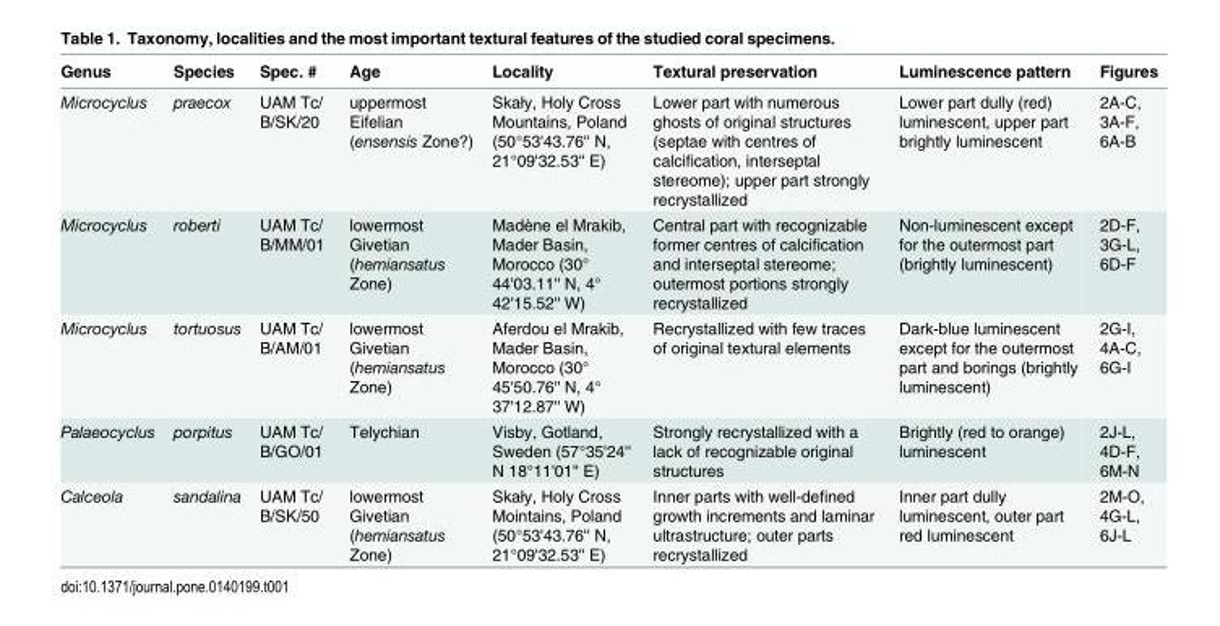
<table><thead><tr><td>Genus</td><td>Species</td><td>Spec. #</td><td>Age</td><td>Locality</td><td>Textural preservation</td><td>Luminescence pattern</td><td>Figures</td></tr></thead><tbody><tr><td>Microcyclus</td><td>praecox</td><td>UAM Tc/ B/SK/20</td><td>uppermost Eifelian (ensensis Zone?)</td><td>Skały, Holy Cross Mountains, Poland (50°53&#x27;43.76&#x27;&#x27; N, 21°09&#x27;32.53&#x27;&#x27; E)</td><td>Lower part with numerous ghosts of original structures (septae with centres of calcification, interseptal stereome); upper part strongly recrystallized</td><td>Lower part dully (red) luminescent, upper part brightly luminescent</td><td>2A-C, 3A-F, 6A-B</td></tr><tr><td>Microcyclus</td><td>roberti</td><td>UAM Tc/ B/MM/01</td><td>lowermost Givetian (hemiansatus Zone)</td><td>Madène el Mrakib, Mader Basin, Morocco (30° 44&#x27;03.11&#x27;&#x27; N, 4° 42&#x27;15.52&#x27;&#x27; W)</td><td>Central part with recognizable former centres of calcification and interseptal stereome; outermost portions strongly recrystallized</td><td>Non-luminescent except for the outermost part (brightly luminescent)</td><td>2D-F, 3G-L, 6D-F</td></tr><tr><td>Microcyclus</td><td>tortuosus</td><td>UAM Tc/ B/AM/01</td><td>lowermost Givetian (hemiansatus Zone)</td><td>Aferdou el Mrakib, Mader Basin, Morocco (30° 45&#x27;50.76&#x27;&#x27; N, 4° 37&#x27;12.87&#x27;&#x27; W)</td><td>Recrystallized with few traces of original textural elements</td><td>Dark-blue luminescent except for the outermost part and borings (brightly luminescent)</td><td>2G-I, 4A-C, 6G-I</td></tr><tr><td>Palaeocyclus</td><td>porpitus</td><td>UAM Tc/ B/GO/01</td><td>Telychian</td><td>Visby, Gotland, Sweden (57°35&#x27;24&#x27;&#x27; N 18°11&#x27;01&#x27;&#x27; E)</td><td>Strongly recrystallized with a lack of recognizable original structures</td><td>Brightly (red to orange) luminescent</td><td>2J-L, 4D-F, 6M-N</td></tr><tr><td>Calceola</td><td>sandalina</td><td>UAM Tc/ B/SK/50</td><td>lowermost Givetian (hemiansatus Zone)</td><td>Skały, Holy Cross Mointains, Poland (50°53&#x27;43.76&#x27;&#x27; N, 21°09&#x27;32.53&#x27;&#x27; E)</td><td>Inner parts with well-defined growth increments and laminar ultrastructure; outer parts recrystallized</td><td>Inner part dully luminescent, outer part red luminescent</td><td>2M-O, 4G-L, 6J-L</td></tr></tbody></table>